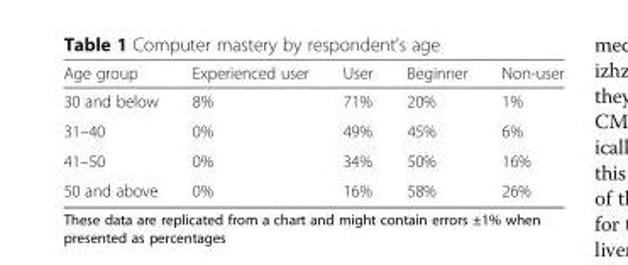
<table><thead><tr><td>Age group</td><td>Experienced user</td><td>User</td><td>Beginner</td><td>Non-user</td></tr></thead><tbody><tr><td>30 and below</td><td>8%</td><td>71%</td><td>20%</td><td>1%</td></tr><tr><td>31–40</td><td>0%</td><td>49%</td><td>45%</td><td>6%</td></tr><tr><td>41–50</td><td>0%</td><td>34%</td><td>50%</td><td>16%</td></tr><tr><td>50 and above</td><td>0%</td><td>16%</td><td>58%</td><td>26%</td></tr></tbody></table>